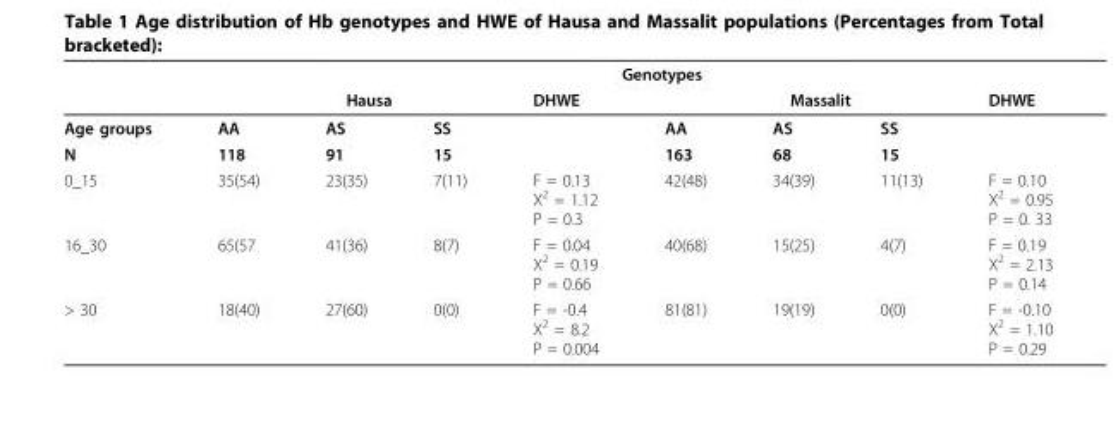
<table><thead><tr><td rowspan="3">Age groups</td><td colspan="8">Genotypes</td></tr><tr><td colspan="3">Hausa</td><td rowspan="2">DHWE</td><td colspan="3">Massalit</td><td rowspan="2">DHWE</td></tr><tr><td>AA</td><td>AS</td><td>SS</td><td>AA</td><td>AS</td><td>SS</td></tr></thead><tbody><tr><td>N</td><td>118</td><td>91</td><td>15</td><td></td><td>163</td><td>68</td><td>15</td><td></td></tr><tr><td>0_15</td><td>35(54)</td><td>23(35)</td><td>7(11)</td><td>F = 0.13 X<sup>2</sup> = 1.12 P = 0.3</td><td>42(48)</td><td>34(39)</td><td>11(13)</td><td>F = 0.10 X<sup>2</sup> = 0.95 P = 0. 33</td></tr><tr><td>16_30</td><td>65(57</td><td>41(36)</td><td>8(7)</td><td>F = 0.04 X<sup>2</sup> = 0.19 P = 0.66</td><td>40(68)</td><td>15(25)</td><td>4(7)</td><td>F = 0.19 X<sup>2</sup> = 2.13 P = 0.14</td></tr><tr><td>&gt; 30</td><td>18(40)</td><td>27(60)</td><td>0(0)</td><td>F = -0.4 X<sup>2</sup> = 8.2 P = 0.004</td><td>81(81)</td><td>19(19)</td><td>0(0)</td><td>F = -0.10 X<sup>2</sup> = 1.10 P = 0.29</td></tr></tbody></table>